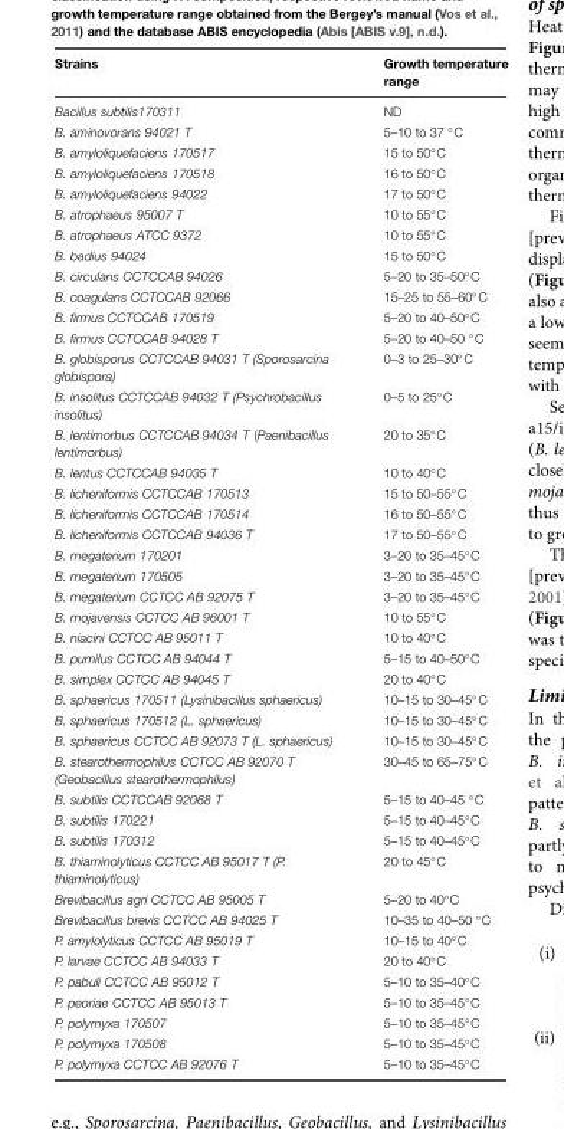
<table><thead><tr><td>Strains</td><td>Growth temperature range</td></tr></thead><tbody><tr><td>Bacillus subtilis170311</td><td>ND</td></tr><tr><td>B. aminovorans 94021 T</td><td>5–10 to 37 ◦C</td></tr><tr><td>B. amyloliquefaciens 170517</td><td>15 to 50◦C</td></tr><tr><td>B. amyloliquefaciens 170518</td><td>16 to 50◦C</td></tr><tr><td>B. amyloliquefaciens 94022</td><td>17 to 50◦C</td></tr><tr><td>B. atrophaeus 95007 T</td><td>10 to 55◦C</td></tr><tr><td>B. atrophaeus ATCC 9372</td><td>10 to 55◦C</td></tr><tr><td>B. badius 94024</td><td>15 to 50◦C</td></tr><tr><td>B. circulans CCTCCAB 94026</td><td>5–20 to 35–50◦C</td></tr><tr><td>B. coagulans CCTCCAB 92066</td><td>15–25 to 55–60◦C</td></tr><tr><td>B. firmus CCTCCAB 170519</td><td>5–20 to 40–50◦C</td></tr><tr><td>B. firmus CCTCCAB 94028 T</td><td>5–20 to 40–50 ◦C</td></tr><tr><td>B. globisporus CCTCCAB 94031 T (Sporosarcina globispora)</td><td>0–3 to 25–30◦C</td></tr><tr><td>B. insolitus CCTCCAB 94032 T (Psychrobacillus insolitus)</td><td>0–5 to 25◦C</td></tr><tr><td>B. lentimorbus CCTCCAB 94034 T (Paenibacillus lentimorbus)</td><td>20 to 35◦C</td></tr><tr><td>B. lentus CCTCCAB 94035 T</td><td>10 to 40◦C</td></tr><tr><td>B. licheniformis CCTCCAB 170513</td><td>15 to 50–55◦C</td></tr><tr><td>B. licheniformis CCTCCAB 170514</td><td>16 to 50–55◦C</td></tr><tr><td>B. licheniformis CCTCCAB 94036 T</td><td>17 to 50–55◦C</td></tr><tr><td>B. megaterium 170201</td><td>3–20 to 35–45◦C</td></tr><tr><td>B. megaterium 170505</td><td>3–20 to 35–45◦C</td></tr><tr><td>B. megaterium CCTCC AB 92075 T</td><td>3–20 to 35–45◦C</td></tr><tr><td>B. mojavensis CCTCC AB 96001 T</td><td>10 to 55◦C</td></tr><tr><td>B. niacini CCTCC AB 95011 T</td><td>10 to 40◦C</td></tr><tr><td>B. pumilus CCTCC AB 94044 T</td><td>5–15 to 40–50◦C</td></tr><tr><td>B. simplex CCTCC AB 94045 T</td><td>20 to 40◦C</td></tr><tr><td>B. sphaericus 170511 (Lysinibacillus sphaericus)</td><td>10–15 to 30–45◦C</td></tr><tr><td>B. sphaericus 170512 (L. sphaericus)</td><td>10–15 to 30–45◦C</td></tr><tr><td>B. sphaericus CCTCC AB 92073 T (L. sphaericus)</td><td>10–15 to 30–45◦C</td></tr><tr><td>B. stearothermophilus CCTCC AB 92070 T (Geobacillus stearothermophilus)</td><td>30–45 to 65–75◦C</td></tr><tr><td>B. subtilis CCTCCAB 92068 T</td><td>5–15 to 40–45 ◦C</td></tr><tr><td>B. subtilis 170221</td><td>5–15 to 40–45◦C</td></tr><tr><td>B. subtilis 170312</td><td>5–15 to 40–45◦C</td></tr><tr><td>B. thiaminolyticus CCTCC AB 95017 T (P. thiaminolyticus)</td><td>20 to 45◦C</td></tr><tr><td>Brevibacillus agri CCTCC AB 95005 T</td><td>5–20 to 40◦C</td></tr><tr><td>Brevibacillus brevis CCTCC AB 94025 T</td><td>10–35 to 40–50 ◦C</td></tr><tr><td>P. amylolyticus CCTCC AB 95019 T</td><td>10–15 to 40◦C</td></tr><tr><td>P. larvae CCTCC AB 94033 T</td><td>20 to 40◦C</td></tr><tr><td>P. pabuli CCTCC AB 95012 T</td><td>5–10 to 35–40◦C</td></tr><tr><td>P. peoriae CCTCC AB 95013 T</td><td>5–10 to 35–45◦C</td></tr><tr><td>P. polymyxa 170507</td><td>5–10 to 35–45◦C</td></tr><tr><td>P. polymyxa 170508</td><td>5–10 to 35–45◦C</td></tr><tr><td>P. polymyxa CCTCC AB 92076 T</td><td>5–10 to 35–45◦C</td></tr></tbody></table>